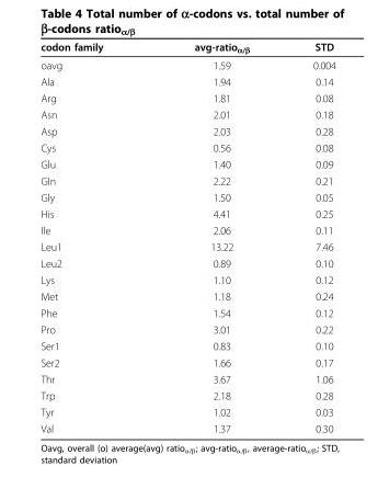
<table><thead><tr><td>codon family</td><td>avg-ratio<sub>α/β</sub></td><td>STD</td></tr></thead><tbody><tr><td>oavg</td><td>1.59</td><td>0.004</td></tr><tr><td>Ala</td><td>1.94</td><td>0.14</td></tr><tr><td>Arg</td><td>1.81</td><td>0.08</td></tr><tr><td>Asn</td><td>2.01</td><td>0.18</td></tr><tr><td>Asp</td><td>2.03</td><td>0.28</td></tr><tr><td>Cys</td><td>0.56</td><td>0.08</td></tr><tr><td>Glu</td><td>1.40</td><td>0.09</td></tr><tr><td>Gln</td><td>2.22</td><td>0.21</td></tr><tr><td>Gly</td><td>1.50</td><td>0.05</td></tr><tr><td>His</td><td>4.41</td><td>0.25</td></tr><tr><td>Ile</td><td>2.06</td><td>0.11</td></tr><tr><td>Leu1</td><td>13.22</td><td>7.46</td></tr><tr><td>Leu2</td><td>0.89</td><td>0.10</td></tr><tr><td>Lys</td><td>1.10</td><td>0.12</td></tr><tr><td>Met</td><td>1.18</td><td>0.24</td></tr><tr><td>Phe</td><td>1.54</td><td>0.12</td></tr><tr><td>Pro</td><td>3.01</td><td>0.22</td></tr><tr><td>Ser1</td><td>0.83</td><td>0.10</td></tr><tr><td>Ser2</td><td>1.66</td><td>0.17</td></tr><tr><td>Thr</td><td>3.67</td><td>1.06</td></tr><tr><td>Trp</td><td>2.18</td><td>0.28</td></tr><tr><td>Tyr</td><td>1.02</td><td>0.03</td></tr><tr><td>Val</td><td>1.37</td><td>0.30</td></tr></tbody></table>